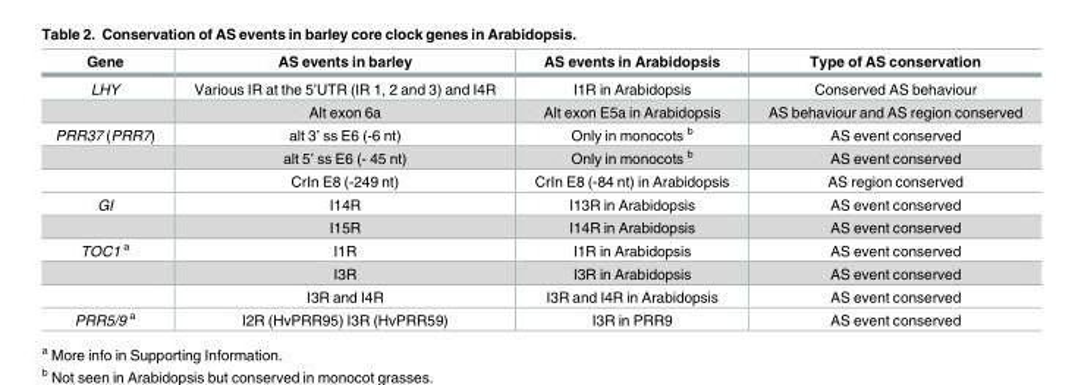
<table><thead><tr><td>Gene</td><td>AS events in barley</td><td>AS events in Arabidopsis</td><td>Type of AS conservation</td></tr></thead><tbody><tr><td rowspan="2">LHY</td><td>Various IR at the 5’UTR (IR 1, 2 and 3) and I4R</td><td>I1R in Arabidopsis</td><td>Conserved AS behaviour</td></tr><tr><td>Alt exon 6a</td><td>Alt exon E5a in Arabidopsis</td><td>AS behaviour and AS region conserved</td></tr><tr><td rowspan="3">PRR37 (PRR7)</td><td>alt 3’ ss E6 (-6 nt)</td><td>Only in monocots <sup>b</sup></td><td>AS event conserved</td></tr><tr><td>alt 5’ ss E6 (- 45 nt)</td><td>Only in monocots <sup>b</sup></td><td>AS event conserved</td></tr><tr><td>CrIn E8 (-249 nt)</td><td>CrIn E8 (-84 nt) in Arabidopsis</td><td>AS region conserved</td></tr><tr><td rowspan="2">GI</td><td>I14R</td><td>I13R in Arabidopsis</td><td>AS event conserved</td></tr><tr><td>I15R</td><td>I14R in Arabidopsis</td><td>AS event conserved</td></tr><tr><td rowspan="3">TOC1 <sup>a</sup></td><td>I1R</td><td>I1R in Arabidopsis</td><td>AS event conserved</td></tr><tr><td>I3R</td><td>I3R in Arabidopsis</td><td>AS event conserved</td></tr><tr><td>I3R and I4R</td><td>I3R and I4R in Arabidopsis</td><td>AS event conserved</td></tr><tr><td>PRR5/9 <sup>a</sup></td><td>I2R (HvPRR95) I3R (HvPRR59)</td><td>I3R in PRR9</td><td>AS event conserved</td></tr></tbody></table>